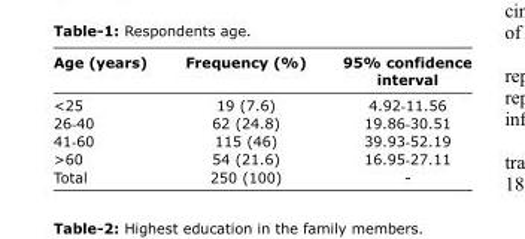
<table><thead><tr><td>Age (years)</td><td>Frequency (%)</td><td>95% confidence interval</td></tr></thead><tbody><tr><td>&lt;25</td><td>19 (7.6)</td><td>4.92-11.56</td></tr><tr><td>26-40</td><td>62 (24.8)</td><td>19.86-30.51</td></tr><tr><td>41-60</td><td>115 (46)</td><td>39.93-52.19</td></tr><tr><td>&gt;60</td><td>54 (21.6)</td><td>16.95-27.11</td></tr><tr><td>Total</td><td>250 (100)</td><td>-</td></tr></tbody></table>